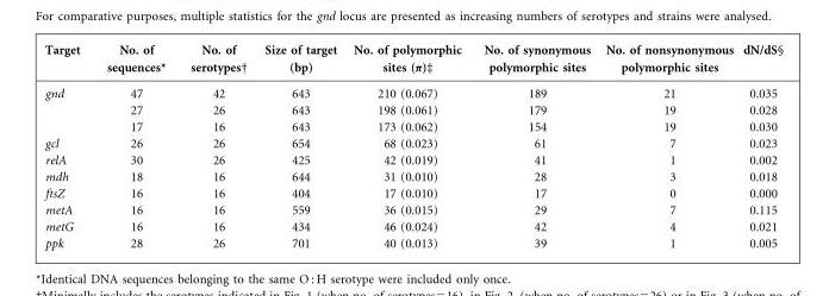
<table><thead><tr><td>Target</td><td>No. of sequences*</td><td>No. of serotypes†</td><td>Size of target (bp)</td><td>No. of polymorphic sites (π)‡</td><td>No. of synonymous polymorphic sites</td><td>No. of nonsynonymous polymorphic sites</td><td>dN/dS§</td></tr></thead><tbody><tr><td rowspan="3">gnd</td><td>47</td><td>42</td><td>643</td><td>210 (0.067)</td><td>189</td><td>21</td><td>0.035</td></tr><tr><td>27</td><td>26</td><td>643</td><td>198 (0.061)</td><td>179</td><td>19</td><td>0.028</td></tr><tr><td>17</td><td>16</td><td>643</td><td>173 (0.062)</td><td>154</td><td>19</td><td>0.030</td></tr><tr><td>gcl</td><td>26</td><td>26</td><td>654</td><td>68 (0.023)</td><td>61</td><td>7</td><td>0.023</td></tr><tr><td>relA</td><td>30</td><td>26</td><td>425</td><td>42 (0.019)</td><td>41</td><td>1</td><td>0.002</td></tr><tr><td>mdh</td><td>18</td><td>16</td><td>644</td><td>31 (0.010)</td><td>28</td><td>3</td><td>0.018</td></tr><tr><td>ftsZ</td><td>16</td><td>16</td><td>404</td><td>17 (0.010)</td><td>17</td><td>0</td><td>0.000</td></tr><tr><td>metA</td><td>16</td><td>16</td><td>559</td><td>36 (0.015)</td><td>29</td><td>7</td><td>0.115</td></tr><tr><td>metG</td><td>16</td><td>16</td><td>434</td><td>46 (0.024)</td><td>42</td><td>4</td><td>0.021</td></tr><tr><td>ppk</td><td>28</td><td>26</td><td>701</td><td>40 (0.013)</td><td>39</td><td>1</td><td>0.005</td></tr></tbody></table>